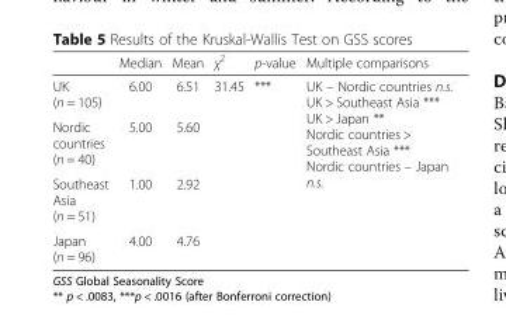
<table><thead><tr><td></td><td>Median</td><td>Mean</td><td>χ<sup>2</sup></td><td>p-value</td><td>Multiple comparisons</td></tr></thead><tbody><tr><td>UK (n = 105)</td><td>6.00</td><td>6.51</td><td rowspan="4">31.45</td><td rowspan="4">***</td><td rowspan="4">UK – Nordic countries n.s. UK &gt; Southeast Asia *** UK &gt; Japan ** Nordic countries &gt; Southeast Asia *** Nordic countries – Japan n.s.</td></tr><tr><td>Nordic countries (n = 40)</td><td>5.00</td><td>5.60</td></tr><tr><td>Southeast Asia (n = 51)</td><td>1.00</td><td>2.92</td></tr><tr><td>Japan (n = 96)</td><td>4.00</td><td>4.76</td></tr></tbody></table>